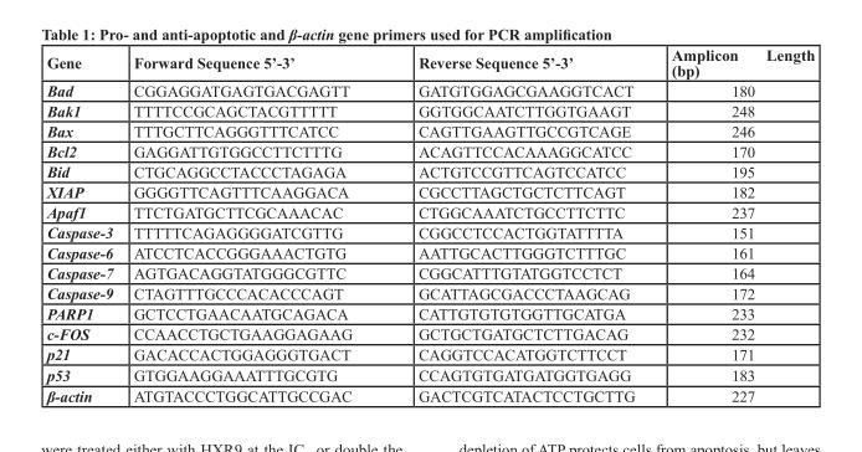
<table><tbody><tr><td>Gene</td><td>Forward Sequence 5’-3’</td><td>Reverse Sequence 5’-3’</td><td>Amplicon Length (bp)</td></tr><tr><td>Bad</td><td>CGGAGGATGAGTGACGAGTT</td><td>GATGTGGAGCGAAGGTCACT</td><td>180</td></tr><tr><td>Bak1</td><td>TTTTCCGCAGCTACGTTTTT</td><td>GGTGGCAATCTTGGTGAAGT</td><td>248</td></tr><tr><td>Bax</td><td>TTTGCTTCAGGGTTTCATCC</td><td>CAGTTGAAGTTGCCGTCAGE</td><td>246</td></tr><tr><td>Bcl2</td><td>GAGGATTGTGGCCTTCTTTG</td><td>ACAGTTCCACAAAGGCATCC</td><td>170</td></tr><tr><td>Bid</td><td>CTGCAGGCCTACCCTAGAGA</td><td>ACTGTCCGTTCAGTCCATCC</td><td>195</td></tr><tr><td>XIAP</td><td>GGGGTTCAGTTTCAAGGACA</td><td>CGCCTTAGCTGCTCTTCAGT</td><td>182</td></tr><tr><td>Apaf1</td><td>TTCTGATGCTTCGCAAACAC</td><td>CTGGCAAATCTGCCTTCTTC</td><td>237</td></tr><tr><td>Caspase-3</td><td>TTTTTCAGAGGGGATCGTTG</td><td>CGGCCTCCACTGGTATTTTA</td><td>151</td></tr><tr><td>Caspase-6</td><td>ATCCTCACCGGGAAACTGTG</td><td>AATTGCACTTGGGTCTTTGC</td><td>161</td></tr><tr><td>Caspase-7</td><td>AGTGACAGGTATGGGCGTTC</td><td>CGGCATTTGTATGGTCCTCT</td><td>164</td></tr><tr><td>Caspase-9</td><td>CTAGTTTGCCCACACCCAGT</td><td>GCATTAGCGACCCTAAGCAG</td><td>172</td></tr><tr><td>PARP1</td><td>GCTCCTGAACAATGCAGACA</td><td>CATTGTGTGTGGTTGCATGA</td><td>233</td></tr><tr><td>c-FOS</td><td>CCAACCTGCTGAAGGAGAAG</td><td>GCTGCTGATGCTCTTGACAG</td><td>232</td></tr><tr><td>p21</td><td>GACACCACTGGAGGGTGACT</td><td>CAGGTCCACATGGTCTTCCT</td><td>171</td></tr><tr><td>p53</td><td>GTGGAAGGAAATTTGCGTG</td><td>CCAGTGTGATGATGGTGAGG</td><td>183</td></tr><tr><td>β-actin</td><td>ATGTACCCTGGCATTGCCGAC</td><td>GACTCGTCATACTCCTGCTTG</td><td>227</td></tr></tbody></table>